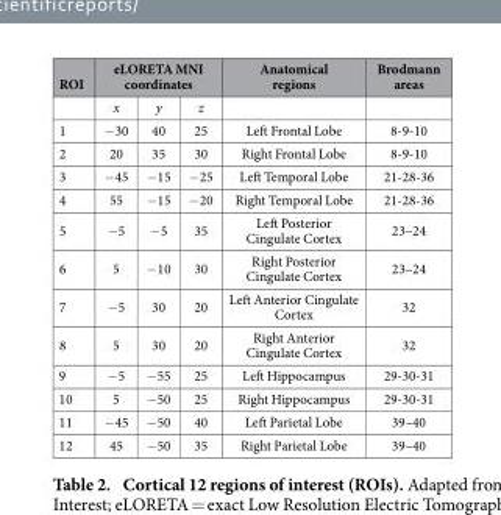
<table><thead><tr><td rowspan="2">ROI</td><td colspan="3">eLORETA MNI coordinates</td><td rowspan="2">Anatomical regions</td><td rowspan="2">Brodmann areas</td></tr><tr><td>x</td><td>y</td><td>z</td></tr></thead><tbody><tr><td>1</td><td>− 30</td><td>40</td><td>25</td><td>Left Frontal Lobe</td><td>8-9-10</td></tr><tr><td>2</td><td>20</td><td>35</td><td>30</td><td>Right Frontal Lobe</td><td>8-9-10</td></tr><tr><td>3</td><td>− 45</td><td>− 15</td><td>− 25</td><td>Left Temporal Lobe</td><td>21-28-36</td></tr><tr><td>4</td><td>55</td><td>− 15</td><td>− 20</td><td>Right Temporal Lobe</td><td>21-28-36</td></tr><tr><td>5</td><td>− 5</td><td>− 5</td><td>35</td><td>Left Posterior Cingulate Cortex</td><td>23–24</td></tr><tr><td>6</td><td>5</td><td>− 10</td><td>30</td><td>Right Posterior Cingulate Cortex</td><td>23–24</td></tr><tr><td>7</td><td>− 5</td><td>30</td><td>20</td><td>Left Anterior Cingulate Cortex</td><td>32</td></tr><tr><td>8</td><td>5</td><td>30</td><td>20</td><td>Right Anterior Cingulate Cortex</td><td>32</td></tr><tr><td>9</td><td>− 5</td><td>− 55</td><td>25</td><td>Left Hippocampus</td><td>29-30-31</td></tr><tr><td>10</td><td>5</td><td>− 50</td><td>25</td><td>Right Hippocampus</td><td>29-30-31</td></tr><tr><td>11</td><td>− 45</td><td>− 50</td><td>40</td><td>Left Parietal Lobe</td><td>39–40</td></tr><tr><td>12</td><td>45</td><td>− 50</td><td>35</td><td>Right Parietal Lobe</td><td>39–40</td></tr></tbody></table>